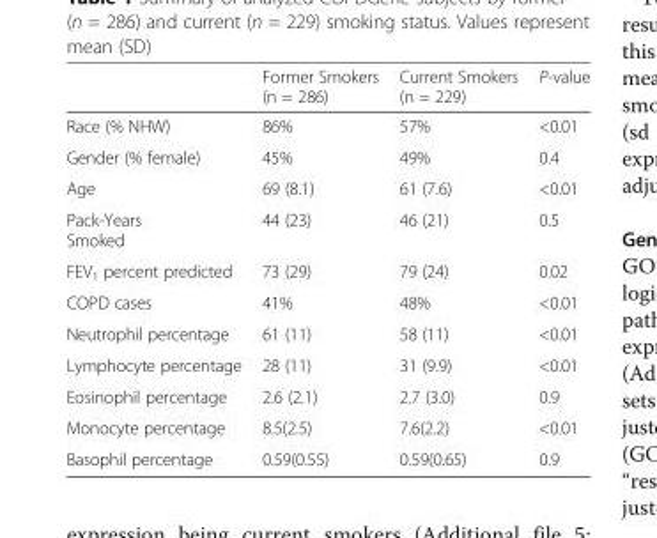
<table><thead><tr><td></td><td>Former Smokers (n = 286)</td><td>Current Smokers (n = 229)</td><td>P-value</td></tr></thead><tbody><tr><td>Race (% NHW)</td><td>86%</td><td>57%</td><td>&lt;0.01</td></tr><tr><td>Gender (% female)</td><td>45%</td><td>49%</td><td>0.4</td></tr><tr><td>Age</td><td>69 (8.1)</td><td>61 (7.6)</td><td>&lt;0.01</td></tr><tr><td>Pack-Years Smoked</td><td>44 (23)</td><td>46 (21)</td><td>0.5</td></tr><tr><td>FEV<sub>1</sub> percent predicted</td><td>73 (29)</td><td>79 (24)</td><td>0.02</td></tr><tr><td>COPD cases</td><td>41%</td><td>48%</td><td>&lt;0.01</td></tr><tr><td>Neutrophil percentage</td><td>61 (11)</td><td>58 (11)</td><td>&lt;0.01</td></tr><tr><td>Lymphocyte percentage</td><td>28 (11)</td><td>31 (9.9)</td><td>&lt;0.01</td></tr><tr><td>Eosinophil percentage</td><td>2.6 (2.1)</td><td>2.7 (3.0)</td><td>0.9</td></tr><tr><td>Monocyte percentage</td><td>8.5(2.5)</td><td>7.6(2.2)</td><td>&lt;0.01</td></tr><tr><td>Basophil percentage</td><td>0.59(0.55)</td><td>0.59(0.65)</td><td>0.9</td></tr></tbody></table>